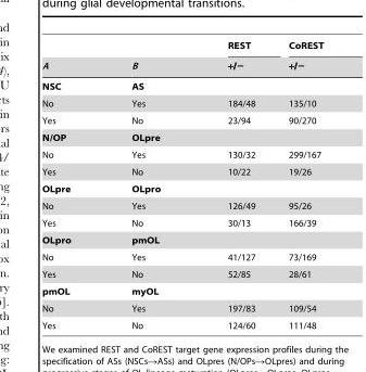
<table><thead><tr><td rowspan="2">A</td><td rowspan="2">B</td><td rowspan="2">REST +/−</td><td rowspan="2">CoREST +/−</td></tr><tr></tr></thead><tbody><tr><td>NSC</td><td>AS</td><td></td><td></td></tr><tr><td>No</td><td>Yes</td><td>184/48</td><td>135/10</td></tr><tr><td>Yes</td><td>No</td><td>23/94</td><td>90/270</td></tr><tr><td>N/OP</td><td>OLpre</td><td></td><td></td></tr><tr><td>No</td><td>Yes</td><td>130/32</td><td>299/167</td></tr><tr><td>Yes</td><td>No</td><td>10/22</td><td>19/26</td></tr><tr><td>OLpre</td><td>OLpro</td><td></td><td></td></tr><tr><td>No</td><td>Yes</td><td>126/49</td><td>95/26</td></tr><tr><td>Yes</td><td>No</td><td>30/13</td><td>166/39</td></tr><tr><td>OLpro</td><td>pmOL</td><td></td><td></td></tr><tr><td>No</td><td>Yes</td><td>41/127</td><td>73/169</td></tr><tr><td>Yes</td><td>No</td><td>52/85</td><td>28/61</td></tr><tr><td>pmOL</td><td>myOL</td><td></td><td></td></tr><tr><td>No</td><td>Yes</td><td>197/83</td><td>109/54</td></tr><tr><td>Yes</td><td>No</td><td>124/60</td><td>111/48</td></tr></tbody></table>